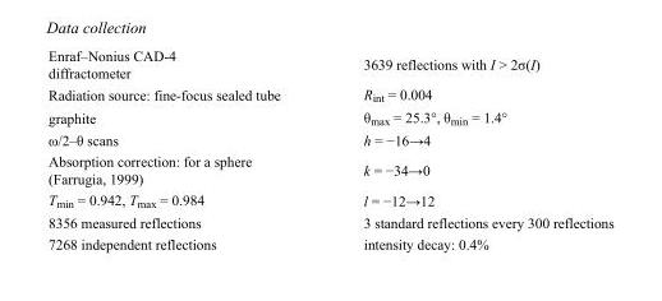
<table><tbody><tr><td>Enraf–Nonius CAD-4 diffractometer</td><td>3639 reflections with I &gt; 2σ(I)</td></tr><tr><td>Radiation source: fine-focus sealed tube</td><td>R<sub>int</sub> = 0.004</td></tr><tr><td>graphite</td><td>θ<sub>max</sub> = 25.3°, θ<sub>min</sub> = 1.4°</td></tr><tr><td>ω/2–θ scans</td><td>h = −16→4</td></tr><tr><td>Absorption correction: for a sphere (Farrugia, 1999)</td><td>k = −34→0</td></tr><tr><td>T<sub>min</sub> = 0.942, T<sub>max</sub> = 0.984</td><td>l = −12→12</td></tr><tr><td>8356 measured reflections</td><td>3 standard reflections every 300 reflections</td></tr><tr><td>7268 independent reflections</td><td>intensity decay: 0.4%</td></tr></tbody></table>